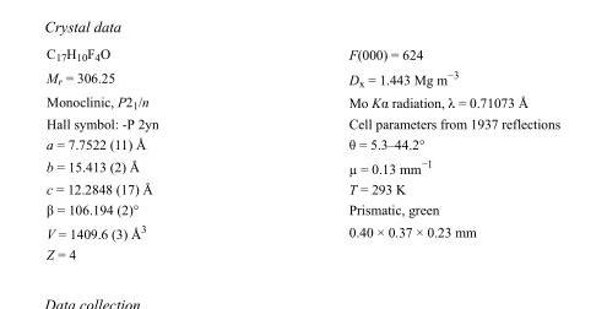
<table><tbody><tr><td>C<sub>17</sub>H<sub>10</sub>F<sub>4</sub>O</td><td>F(000) = 624</td></tr><tr><td>M<sub>r</sub> = 306.25</td><td>D<sub>x</sub> = 1.443 Mg m<sup>−3</sup></td></tr><tr><td>Monoclinic, P2<sub>1</sub>/n</td><td>Mo Kα radiation, λ = 0.71073 Å</td></tr><tr><td>Hall symbol: -P 2yn</td><td>Cell parameters from 1937 reflections</td></tr><tr><td>a = 7.7522 (11) Å</td><td>θ = 5.3–44.2°</td></tr><tr><td>b = 15.413 (2) Å</td><td>µ = 0.13 mm<sup>−1</sup></td></tr><tr><td>c = 12.2848 (17) Å</td><td>T = 293 K</td></tr><tr><td>β = 106.194 (2)°</td><td>Prismatic, green</td></tr><tr><td>V = 1409.6 (3) Å<sup>3</sup></td><td>0.40 × 0.37 × 0.23 mm</td></tr><tr><td>Z = 4</td><td></td></tr></tbody></table>